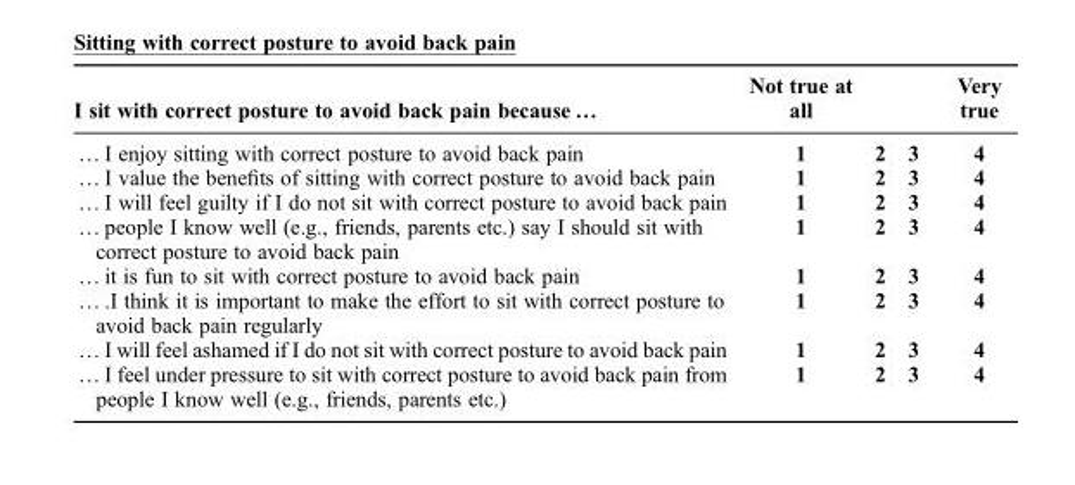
<table><thead><tr><td>I sit with correct posture to avoid back pain because …</td><td>Not true at all</td><td></td><td></td><td>Very true</td></tr></thead><tbody><tr><td>… I enjoy sitting with correct posture to avoid back pain</td><td>1</td><td>2</td><td>3</td><td>4</td></tr><tr><td>… I value the benefits of sitting with correct posture to avoid back pain</td><td>1</td><td>2</td><td>3</td><td>4</td></tr><tr><td>… I will feel guilty if I do not sit with correct posture to avoid back pain</td><td>1</td><td>2</td><td>3</td><td>4</td></tr><tr><td>… people I know well (e.g., friends, parents etc.) say I should sit with correct posture to avoid back pain</td><td>1</td><td>2</td><td>3</td><td>4</td></tr><tr><td>… it is fun to sit with correct posture to avoid back pain</td><td>1</td><td>2</td><td>3</td><td>4</td></tr><tr><td>… .I think it is important to make the effort to sit with correct posture to avoid back pain regularly</td><td>1</td><td>2</td><td>3</td><td>4</td></tr><tr><td>… I will feel ashamed if I do not sit with correct posture to avoid back pain</td><td>1</td><td>2</td><td>3</td><td>4</td></tr><tr><td>… I feel under pressure to sit with correct posture to avoid back pain from people I know well (e.g., friends, parents etc.)</td><td>1</td><td>2</td><td>3</td><td>4</td></tr></tbody></table>